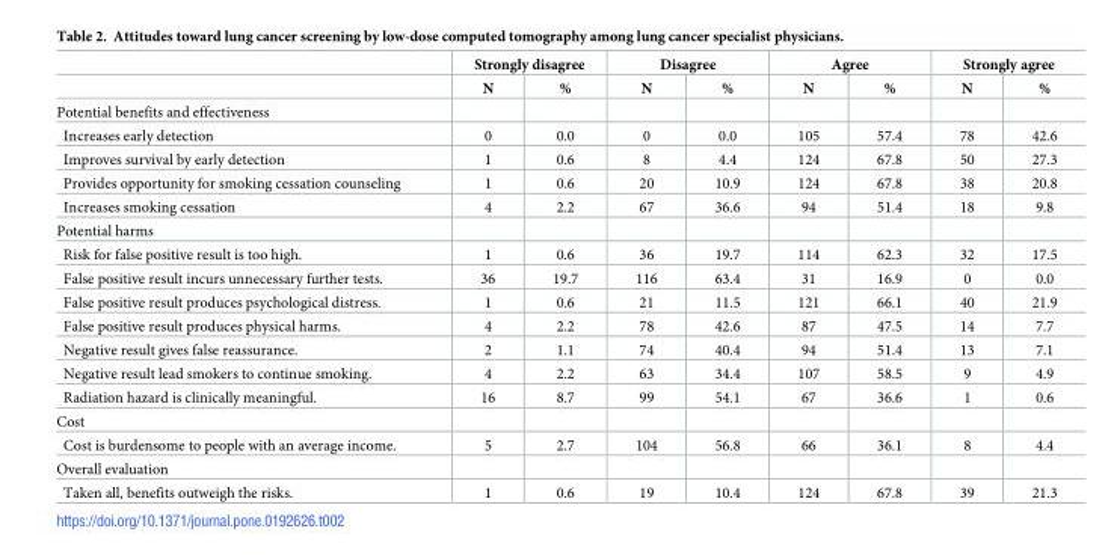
<table><thead><tr><td rowspan="2"></td><td colspan="2">Strongly disagree</td><td colspan="2">Disagree</td><td colspan="2">Agree</td><td colspan="2">Strongly agree</td></tr><tr><td>N</td><td>%</td><td>N</td><td>%</td><td>N</td><td>%</td><td>N</td><td>%</td></tr></thead><tbody><tr><td colspan="9">Potential benefits and effectiveness</td></tr><tr><td>Increases early detection</td><td>0</td><td>0.0</td><td>0</td><td>0.0</td><td>105</td><td>57.4</td><td>78</td><td>42.6</td></tr><tr><td>Improves survival by early detection</td><td>1</td><td>0.6</td><td>8</td><td>4.4</td><td>124</td><td>67.8</td><td>50</td><td>27.3</td></tr><tr><td>Provides opportunity for smoking cessation counseling</td><td>1</td><td>0.6</td><td>20</td><td>10.9</td><td>124</td><td>67.8</td><td>38</td><td>20.8</td></tr><tr><td>Increases smoking cessation</td><td>4</td><td>2.2</td><td>67</td><td>36.6</td><td>94</td><td>51.4</td><td>18</td><td>9.8</td></tr><tr><td colspan="9">Potential harms</td></tr><tr><td>Risk for false positive result is too high.</td><td>1</td><td>0.6</td><td>36</td><td>19.7</td><td>114</td><td>62.3</td><td>32</td><td>17.5</td></tr><tr><td>False positive result incurs unnecessary further tests.</td><td>36</td><td>19.7</td><td>116</td><td>63.4</td><td>31</td><td>16.9</td><td>0</td><td>0.0</td></tr><tr><td>False positive result produces psychological distress.</td><td>1</td><td>0.6</td><td>21</td><td>11.5</td><td>121</td><td>66.1</td><td>40</td><td>21.9</td></tr><tr><td>False positive result produces physical harms.</td><td>4</td><td>2.2</td><td>78</td><td>42.6</td><td>87</td><td>47.5</td><td>14</td><td>7.7</td></tr><tr><td>Negative result gives false reassurance.</td><td>2</td><td>1.1</td><td>74</td><td>40.4</td><td>94</td><td>51.4</td><td>13</td><td>7.1</td></tr><tr><td>Negative result lead smokers to continue smoking.</td><td>4</td><td>2.2</td><td>63</td><td>34.4</td><td>107</td><td>58.5</td><td>9</td><td>4.9</td></tr><tr><td>Radiation hazard is clinically meaningful.</td><td>16</td><td>8.7</td><td>99</td><td>54.1</td><td>67</td><td>36.6</td><td>1</td><td>0.6</td></tr><tr><td colspan="9">Cost</td></tr><tr><td>Cost is burdensome to people with an average income.</td><td>5</td><td>2.7</td><td>104</td><td>56.8</td><td>66</td><td>36.1</td><td>8</td><td>4.4</td></tr><tr><td colspan="9">Overall evaluation</td></tr><tr><td>Taken all, benefits outweigh the risks.</td><td>1</td><td>0.6</td><td>19</td><td>10.4</td><td>124</td><td>67.8</td><td>39</td><td>21.3</td></tr></tbody></table>